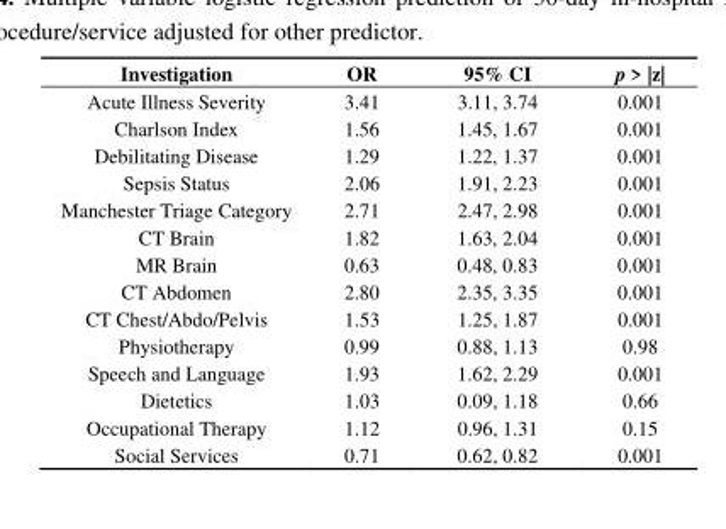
<table><thead><tr><td>Investigation</td><td>OR</td><td>95% CI</td><td>p &gt; |z|</td></tr></thead><tbody><tr><td>Acute Illness Severity</td><td>3.41</td><td>3.11, 3.74</td><td>0.001</td></tr><tr><td>Charlson Index</td><td>1.56</td><td>1.45, 1.67</td><td>0.001</td></tr><tr><td>Debilitating Disease</td><td>1.29</td><td>1.22, 1.37</td><td>0.001</td></tr><tr><td>Sepsis Status</td><td>2.06</td><td>1.91, 2.23</td><td>0.001</td></tr><tr><td>Manchester Triage Category</td><td>2.71</td><td>2.47, 2.98</td><td>0.001</td></tr><tr><td>CT Brain</td><td>1.82</td><td>1.63, 2.04</td><td>0.001</td></tr><tr><td>MR Brain</td><td>0.63</td><td>0.48, 0.83</td><td>0.001</td></tr><tr><td>CT Abdomen</td><td>2.80</td><td>2.35, 3.35</td><td>0.001</td></tr><tr><td>CT Chest/Abdo/Pelvis</td><td>1.53</td><td>1.25, 1.87</td><td>0.001</td></tr><tr><td>Physiotherapy</td><td>0.99</td><td>0.88, 1.13</td><td>0.98</td></tr><tr><td>Speech and Language</td><td>1.93</td><td>1.62, 2.29</td><td>0.001</td></tr><tr><td>Dietetics</td><td>1.03</td><td>0.09, 1.18</td><td>0.66</td></tr><tr><td>Occupational Therapy</td><td>1.12</td><td>0.96, 1.31</td><td>0.15</td></tr><tr><td>Social Services</td><td>0.71</td><td>0.62, 0.82</td><td>0.001</td></tr></tbody></table>